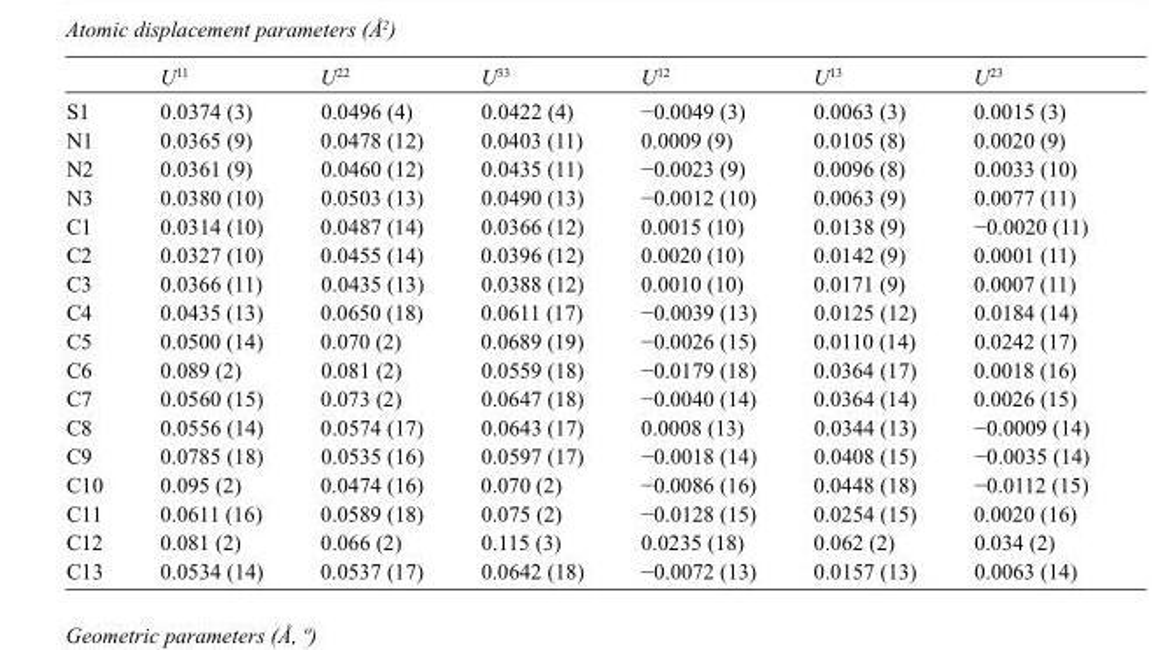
<table><thead><tr><td></td><td>U<sup>11</sup></td><td>U<sup>22</sup></td><td>U<sup>33</sup></td><td>U<sup>12</sup></td><td>U<sup>13</sup></td><td>U<sup>23</sup></td></tr></thead><tbody><tr><td>S1</td><td>0.0374 (3)</td><td>0.0496 (4)</td><td>0.0422 (4)</td><td>−0.0049 (3)</td><td>0.0063 (3)</td><td>0.0015 (3)</td></tr><tr><td>N1</td><td>0.0365 (9)</td><td>0.0478 (12)</td><td>0.0403 (11)</td><td>0.0009 (9)</td><td>0.0105 (8)</td><td>0.0020 (9)</td></tr><tr><td>N2</td><td>0.0361 (9)</td><td>0.0460 (12)</td><td>0.0435 (11)</td><td>−0.0023 (9)</td><td>0.0096 (8)</td><td>0.0033 (10)</td></tr><tr><td>N3</td><td>0.0380 (10)</td><td>0.0503 (13)</td><td>0.0490 (13)</td><td>−0.0012 (10)</td><td>0.0063 (9)</td><td>0.0077 (11)</td></tr><tr><td>C1</td><td>0.0314 (10)</td><td>0.0487 (14)</td><td>0.0366 (12)</td><td>0.0015 (10)</td><td>0.0138 (9)</td><td>−0.0020 (11)</td></tr><tr><td>C2</td><td>0.0327 (10)</td><td>0.0455 (14)</td><td>0.0396 (12)</td><td>0.0020 (10)</td><td>0.0142 (9)</td><td>0.0001 (11)</td></tr><tr><td>C3</td><td>0.0366 (11)</td><td>0.0435 (13)</td><td>0.0388 (12)</td><td>0.0010 (10)</td><td>0.0171 (9)</td><td>0.0007 (11)</td></tr><tr><td>C4</td><td>0.0435 (13)</td><td>0.0650 (18)</td><td>0.0611 (17)</td><td>−0.0039 (13)</td><td>0.0125 (12)</td><td>0.0184 (14)</td></tr><tr><td>C5</td><td>0.0500 (14)</td><td>0.070 (2)</td><td>0.0689 (19)</td><td>−0.0026 (15)</td><td>0.0110 (14)</td><td>0.0242 (17)</td></tr><tr><td>C6</td><td>0.089 (2)</td><td>0.081 (2)</td><td>0.0559 (18)</td><td>−0.0179 (18)</td><td>0.0364 (17)</td><td>0.0018 (16)</td></tr><tr><td>C7</td><td>0.0560 (15)</td><td>0.073 (2)</td><td>0.0647 (18)</td><td>−0.0040 (14)</td><td>0.0364 (14)</td><td>0.0026 (15)</td></tr><tr><td>C8</td><td>0.0556 (14)</td><td>0.0574 (17)</td><td>0.0643 (17)</td><td>0.0008 (13)</td><td>0.0344 (13)</td><td>−0.0009 (14)</td></tr><tr><td>C9</td><td>0.0785 (18)</td><td>0.0535 (16)</td><td>0.0597 (17)</td><td>−0.0018 (14)</td><td>0.0408 (15)</td><td>−0.0035 (14)</td></tr><tr><td>C10</td><td>0.095 (2)</td><td>0.0474 (16)</td><td>0.070 (2)</td><td>−0.0086 (16)</td><td>0.0448 (18)</td><td>−0.0112 (15)</td></tr><tr><td>C11</td><td>0.0611 (16)</td><td>0.0589 (18)</td><td>0.075 (2)</td><td>−0.0128 (15)</td><td>0.0254 (15)</td><td>0.0020 (16)</td></tr><tr><td>C12</td><td>0.081 (2)</td><td>0.066 (2)</td><td>0.115 (3)</td><td>0.0235 (18)</td><td>0.062 (2)</td><td>0.034 (2)</td></tr><tr><td>C13</td><td>0.0534 (14)</td><td>0.0537 (17)</td><td>0.0642 (18)</td><td>−0.0072 (13)</td><td>0.0157 (13)</td><td>0.0063 (14)</td></tr></tbody></table>